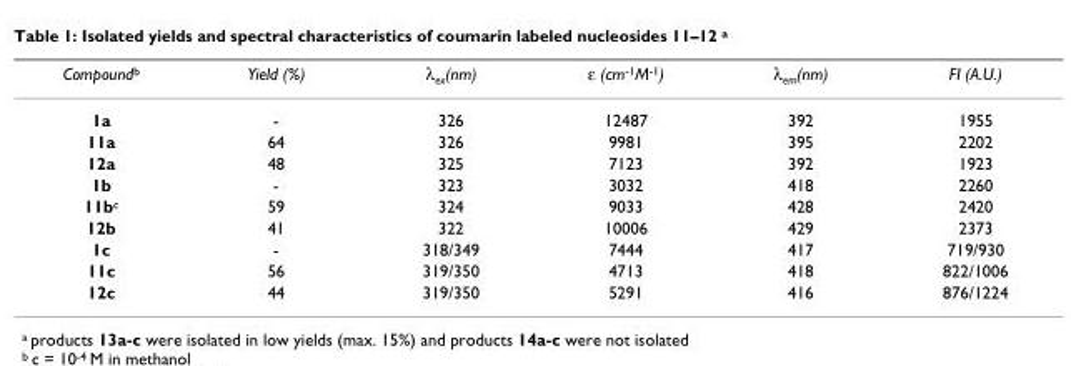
<table><thead><tr><td>Compound<sup>b</sup></td><td>Yield (%)</td><td>λ<sub>ex</sub>(nm)</td><td>ε (cm<sup>-1</sup>M<sup>-1</sup>)</td><td>λ<sub>em</sub>(nm)</td><td>FI (A.U.)</td></tr></thead><tbody><tr><td>1a</td><td>-</td><td>326</td><td>12487</td><td>392</td><td>1955</td></tr><tr><td>11a</td><td>64</td><td>326</td><td>9981</td><td>395</td><td>2202</td></tr><tr><td>12a</td><td>48</td><td>325</td><td>7123</td><td>392</td><td>1923</td></tr><tr><td>1b</td><td>-</td><td>323</td><td>3032</td><td>418</td><td>2260</td></tr><tr><td>11b<sup>c</sup></td><td>59</td><td>324</td><td>9033</td><td>428</td><td>2420</td></tr><tr><td>12b</td><td>41</td><td>322</td><td>10006</td><td>429</td><td>2373</td></tr><tr><td>1c</td><td>-</td><td>318/349</td><td>7444</td><td>417</td><td>719/930</td></tr><tr><td>11c</td><td>56</td><td>319/350</td><td>4713</td><td>418</td><td>822/1006</td></tr><tr><td>12c</td><td>44</td><td>319/350</td><td>5291</td><td>416</td><td>876/1224</td></tr></tbody></table>